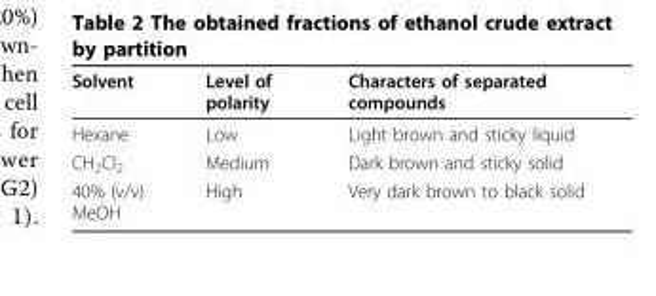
<table><thead><tr><td>Solvent</td><td>Level of polarity</td><td>Characters of separated compounds</td></tr></thead><tbody><tr><td>Hexane</td><td>Low</td><td>Light brown and sticky liquid</td></tr><tr><td>CH<sub>2</sub>Cl<sub>2</sub></td><td>Medium</td><td>Dark brown and sticky solid</td></tr><tr><td>40% (v/v) MeOH</td><td>High</td><td>Very dark brown to black solid</td></tr></tbody></table>